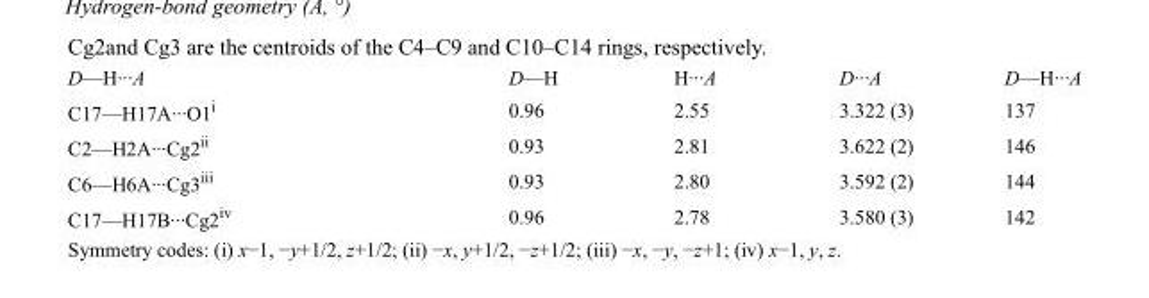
<table><tbody><tr><td>D—H···A</td><td>D—H</td><td>H···A</td><td>D···A</td><td>D—H···A</td></tr><tr><td>C17—H17A···O1<sup>i</sup></td><td>0.96</td><td>2.55</td><td>3.322 (3)</td><td>137</td></tr><tr><td>C2—H2A···Cg2<sup>ii</sup></td><td>0.93</td><td>2.81</td><td>3.622 (2)</td><td>146</td></tr><tr><td>C6—H6A···Cg3<sup>iii</sup></td><td>0.93</td><td>2.80</td><td>3.592 (2)</td><td>144</td></tr><tr><td>C17—H17B···Cg2<sup>iv</sup></td><td>0.96</td><td>2.78</td><td>3.580 (3)</td><td>142</td></tr></tbody></table>